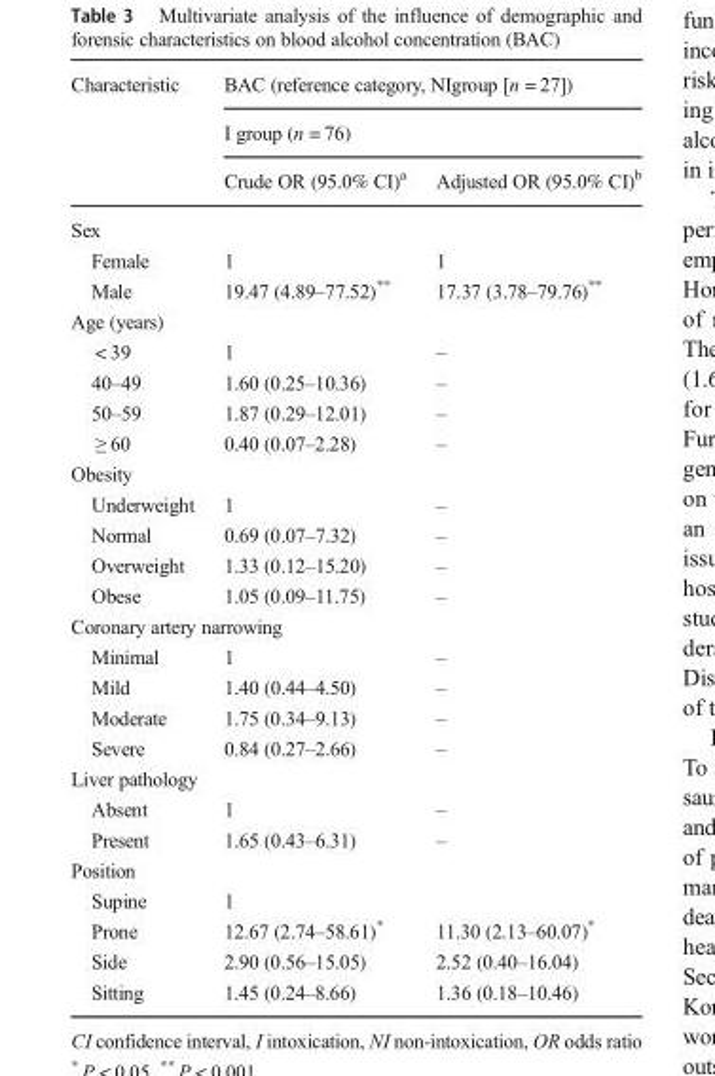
<table><thead><tr><td rowspan="3">Characteristic</td><td rowspan="2" colspan="2">BAC (reference category, NIgroup [n = 27]) I group (n = 76)</td></tr><tr></tr><tr><td>Crude OR (95.0% CI)<sup>a</sup></td><td>Adjusted OR (95.0% CI)<sup>b</sup></td></tr></thead><tbody><tr><td colspan="3">Sex</td></tr><tr><td>Female</td><td>1</td><td>1</td></tr><tr><td>Male</td><td>19.47 (4.89–77.52)**</td><td>17.37 (3.78–79.76)**</td></tr><tr><td colspan="3">Age (years)</td></tr><tr><td>&lt; 39</td><td>1</td><td>–</td></tr><tr><td>40–49</td><td>1.60 (0.25–10.36)</td><td>–</td></tr><tr><td>50–59</td><td>1.87 (0.29–12.01)</td><td>–</td></tr><tr><td>≥ 60</td><td>0.40 (0.07–2.28)</td><td>–</td></tr><tr><td colspan="3">Obesity</td></tr><tr><td>Underweight</td><td>1</td><td>–</td></tr><tr><td>Normal</td><td>0.69 (0.07–7.32)</td><td>–</td></tr><tr><td>Overweight</td><td>1.33 (0.12–15.20)</td><td>–</td></tr><tr><td>Obese</td><td>1.05 (0.09–11.75)</td><td>–</td></tr><tr><td colspan="3">Coronary artery narrowing</td></tr><tr><td>Minimal</td><td>1</td><td>–</td></tr><tr><td>Mild</td><td>1.40 (0.44–4.50)</td><td>–</td></tr><tr><td>Moderate</td><td>1.75 (0.34–9.13)</td><td>–</td></tr><tr><td>Severe</td><td>0.84 (0.27–2.66)</td><td>–</td></tr><tr><td colspan="3">Liver pathology</td></tr><tr><td>Absent</td><td>1</td><td>–</td></tr><tr><td>Present</td><td>1.65 (0.43–6.31)</td><td>–</td></tr><tr><td colspan="3">Position</td></tr><tr><td>Supine</td><td>1</td><td></td></tr><tr><td>Prone</td><td>12.67 (2.74–58.61)*</td><td>11.30 (2.13–60.07)*</td></tr><tr><td>Side</td><td>2.90 (0.56–15.05)</td><td>2.52 (0.40–16.04)</td></tr><tr><td>Sitting</td><td>1.45 (0.24–8.66)</td><td>1.36 (0.18–10.46)</td></tr></tbody></table>